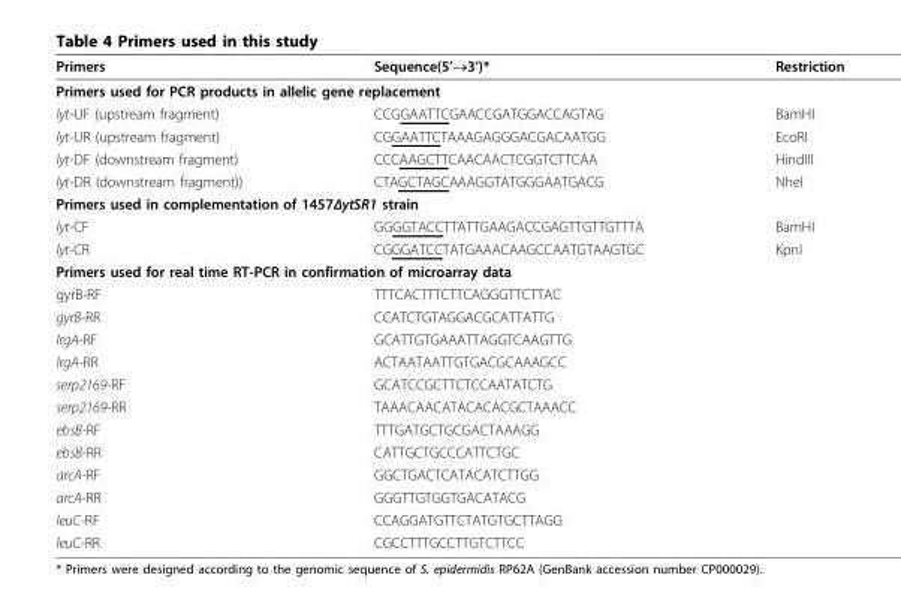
<table><thead><tr><td>Primers</td><td>Sequence(5’→3’)*</td><td>Restriction</td></tr></thead><tbody><tr><td colspan="3">Primers used for PCR products in allelic gene replacement</td></tr><tr><td>lyt-UF (upstream fragment)</td><td>CCGGAATTCGAACCGATGGACCAGTAG</td><td>BamHI</td></tr><tr><td>lyt-UR (upstream fragment)</td><td>CGGAATTCTAAAGAGGGACGACAATGG</td><td>EcoRI</td></tr><tr><td>lyt-DF (downstream fragment)</td><td>CCCAAGCTTCAACAACTCGGTCTTCAA</td><td>HindIII</td></tr><tr><td>lyt-DR (downstream fragment))</td><td>CTAGCTAGCAAAGGTATGGGAATGACG</td><td>NheI</td></tr><tr><td colspan="3">Primers used in complementation of 1457ΔytSR1 strain</td></tr><tr><td>lyt-CF</td><td>GGGGTACCTTATTGAAGACCGAGTTGTTGTTTA</td><td>BamHI</td></tr><tr><td>lyt-CR</td><td>CGGGATCCTATGAAACAAGCCAATGTAAGTGC</td><td>KpnI</td></tr><tr><td colspan="3">Primers used for real time RT-PCR in confirmation of microarray data</td></tr><tr><td>gyrB-RF</td><td>TTTCACTTTCTTCAGGGTTCTTAC</td><td></td></tr><tr><td>gyrB-RR</td><td>CCATCTGTAGGACGCATTATTG</td><td></td></tr><tr><td>lrgA-RF</td><td>GCATTGTGAAATTAGGTCAAGTTG</td><td></td></tr><tr><td>lrgA-RR</td><td>ACTAATAATTGTGACGCAAAGCC</td><td></td></tr><tr><td>serp2169-RF</td><td>GCATCCGCTTCTCCAATATCTG</td><td></td></tr><tr><td>serp2169-RR</td><td>TAAACAACATACACACGCTAAACC</td><td></td></tr><tr><td>ebsB-RF</td><td>TTTGATGCTGCGACTAAAGG</td><td></td></tr><tr><td>ebsB-RR</td><td>CATTGCTGCCCATTCTGC</td><td></td></tr><tr><td>arcA-RF</td><td>GGCTGACTCATACATCTTGG</td><td></td></tr><tr><td>arcA-RR</td><td>GGGTTGTGGTGACATACG</td><td></td></tr><tr><td>leuC-RF</td><td>CCAGGATGTTCTATGTGCTTAGG</td><td></td></tr><tr><td>leuC-RR</td><td>CGCCTTTGCCTTGTCTTCC</td><td></td></tr></tbody></table>